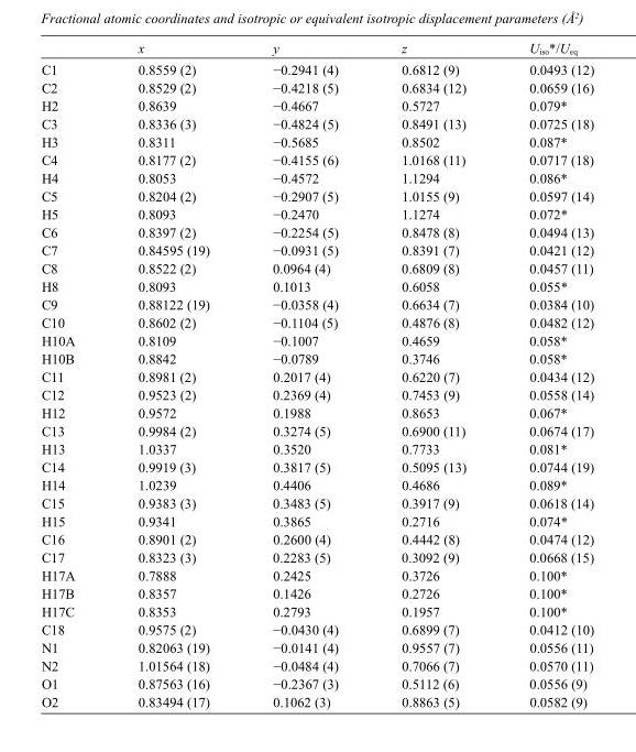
<table><thead><tr><td></td><td>x</td><td>y</td><td>z</td><td>U<sub>iso</sub>*/U<sub>eq</sub></td></tr></thead><tbody><tr><td>C1</td><td>0.8559 (2)</td><td>−0.2941 (4)</td><td>0.6812 (9)</td><td>0.0493 (12)</td></tr><tr><td>C2</td><td>0.8529 (2)</td><td>−0.4218 (5)</td><td>0.6834 (12)</td><td>0.0659 (16)</td></tr><tr><td>H2</td><td>0.8639</td><td>−0.4667</td><td>0.5727</td><td>0.079*</td></tr><tr><td>C3</td><td>0.8336 (3)</td><td>−0.4824 (5)</td><td>0.8491 (13)</td><td>0.0725 (18)</td></tr><tr><td>H3</td><td>0.8311</td><td>−0.5685</td><td>0.8502</td><td>0.087*</td></tr><tr><td>C4</td><td>0.8177 (2)</td><td>−0.4155 (6)</td><td>1.0168 (11)</td><td>0.0717 (18)</td></tr><tr><td>H4</td><td>0.8053</td><td>−0.4572</td><td>1.1294</td><td>0.086*</td></tr><tr><td>C5</td><td>0.8204 (2)</td><td>−0.2907 (5)</td><td>1.0155 (9)</td><td>0.0597 (14)</td></tr><tr><td>H5</td><td>0.8093</td><td>−0.2470</td><td>1.1274</td><td>0.072*</td></tr><tr><td>C6</td><td>0.8397 (2)</td><td>−0.2254 (5)</td><td>0.8478 (8)</td><td>0.0494 (13)</td></tr><tr><td>C7</td><td>0.84595 (19)</td><td>−0.0931 (5)</td><td>0.8391 (7)</td><td>0.0421 (12)</td></tr><tr><td>C8</td><td>0.8522 (2)</td><td>0.0964 (4)</td><td>0.6809 (8)</td><td>0.0457 (11)</td></tr><tr><td>H8</td><td>0.8093</td><td>0.1013</td><td>0.6058</td><td>0.055*</td></tr><tr><td>C9</td><td>0.88122 (19)</td><td>−0.0358 (4)</td><td>0.6634 (7)</td><td>0.0384 (10)</td></tr><tr><td>C10</td><td>0.8602 (2)</td><td>−0.1104 (5)</td><td>0.4876 (8)</td><td>0.0482 (12)</td></tr><tr><td>H10A</td><td>0.8109</td><td>−0.1007</td><td>0.4659</td><td>0.058*</td></tr><tr><td>H10B</td><td>0.8842</td><td>−0.0789</td><td>0.3746</td><td>0.058*</td></tr><tr><td>C11</td><td>0.8981 (2)</td><td>0.2017 (4)</td><td>0.6220 (7)</td><td>0.0434 (12)</td></tr><tr><td>C12</td><td>0.9523 (2)</td><td>0.2369 (4)</td><td>0.7453 (9)</td><td>0.0558 (14)</td></tr><tr><td>H12</td><td>0.9572</td><td>0.1988</td><td>0.8653</td><td>0.067*</td></tr><tr><td>C13</td><td>0.9984 (2)</td><td>0.3274 (5)</td><td>0.6900 (11)</td><td>0.0674 (17)</td></tr><tr><td>H13</td><td>1.0337</td><td>0.3520</td><td>0.7733</td><td>0.081*</td></tr><tr><td>C14</td><td>0.9919 (3)</td><td>0.3817 (5)</td><td>0.5095 (13)</td><td>0.0744 (19)</td></tr><tr><td>H14</td><td>1.0239</td><td>0.4406</td><td>0.4686</td><td>0.089*</td></tr><tr><td>C15</td><td>0.9383 (3)</td><td>0.3483 (5)</td><td>0.3917 (9)</td><td>0.0618 (14)</td></tr><tr><td>H15</td><td>0.9341</td><td>0.3865</td><td>0.2716</td><td>0.074*</td></tr><tr><td>C16</td><td>0.8901 (2)</td><td>0.2600 (4)</td><td>0.4442 (8)</td><td>0.0474 (12)</td></tr><tr><td>C17</td><td>0.8323 (3)</td><td>0.2283 (5)</td><td>0.3092 (9)</td><td>0.0668 (15)</td></tr><tr><td>H17A</td><td>0.7888</td><td>0.2425</td><td>0.3726</td><td>0.100*</td></tr><tr><td>H17B</td><td>0.8357</td><td>0.1426</td><td>0.2726</td><td>0.100*</td></tr><tr><td>H17C</td><td>0.8353</td><td>0.2793</td><td>0.1957</td><td>0.100*</td></tr><tr><td>C18</td><td>0.9575 (2)</td><td>−0.0430 (4)</td><td>0.6899 (7)</td><td>0.0412 (10)</td></tr><tr><td>N1</td><td>0.82063 (19)</td><td>−0.0141 (4)</td><td>0.9557 (7)</td><td>0.0556 (11)</td></tr><tr><td>N2</td><td>1.01564 (18)</td><td>−0.0484 (4)</td><td>0.7066 (7)</td><td>0.0570 (11)</td></tr><tr><td>O1</td><td>0.87563 (16)</td><td>−0.2367 (3)</td><td>0.5112 (6)</td><td>0.0556 (9)</td></tr><tr><td>O2</td><td>0.83494 (17)</td><td>0.1062 (3)</td><td>0.8863 (5)</td><td>0.0582 (9)</td></tr></tbody></table>